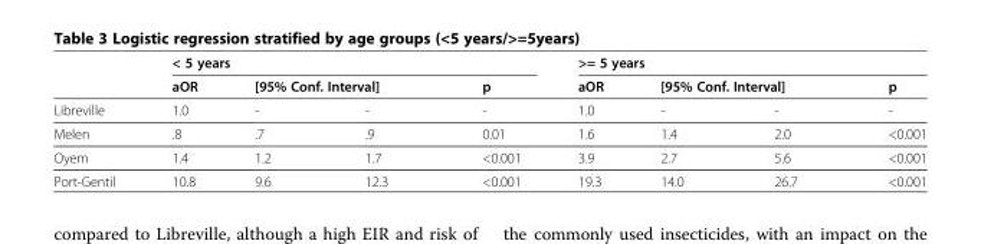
<table><thead><tr><td rowspan="3">Libreville</td><td colspan="4">&lt; 5 years</td><td colspan="4">&gt;= 5 years</td></tr><tr><td rowspan="2">aOR 1.0</td><td colspan="2">[95% Conf. Interval]</td><td rowspan="2">p -</td><td rowspan="2">aOR 1.0</td><td colspan="2">[95% Conf. Interval]</td><td rowspan="2">p -</td></tr><tr><td>-</td><td>-</td><td>-</td><td>-</td></tr></thead><tbody><tr><td>Melen</td><td>.8</td><td>.7</td><td>.9</td><td>0.01</td><td>1.6</td><td>1.4</td><td>2.0</td><td>&lt;0.001</td></tr><tr><td>Oyem</td><td>1.4</td><td>1.2</td><td>1.7</td><td>&lt;0.001</td><td>3.9</td><td>2.7</td><td>5.6</td><td>&lt;0.001</td></tr><tr><td>Port-Gentil</td><td>10.8</td><td>9.6</td><td>12.3</td><td>&lt;0.001</td><td>19.3</td><td>14.0</td><td>26.7</td><td>&lt;0.001</td></tr></tbody></table>